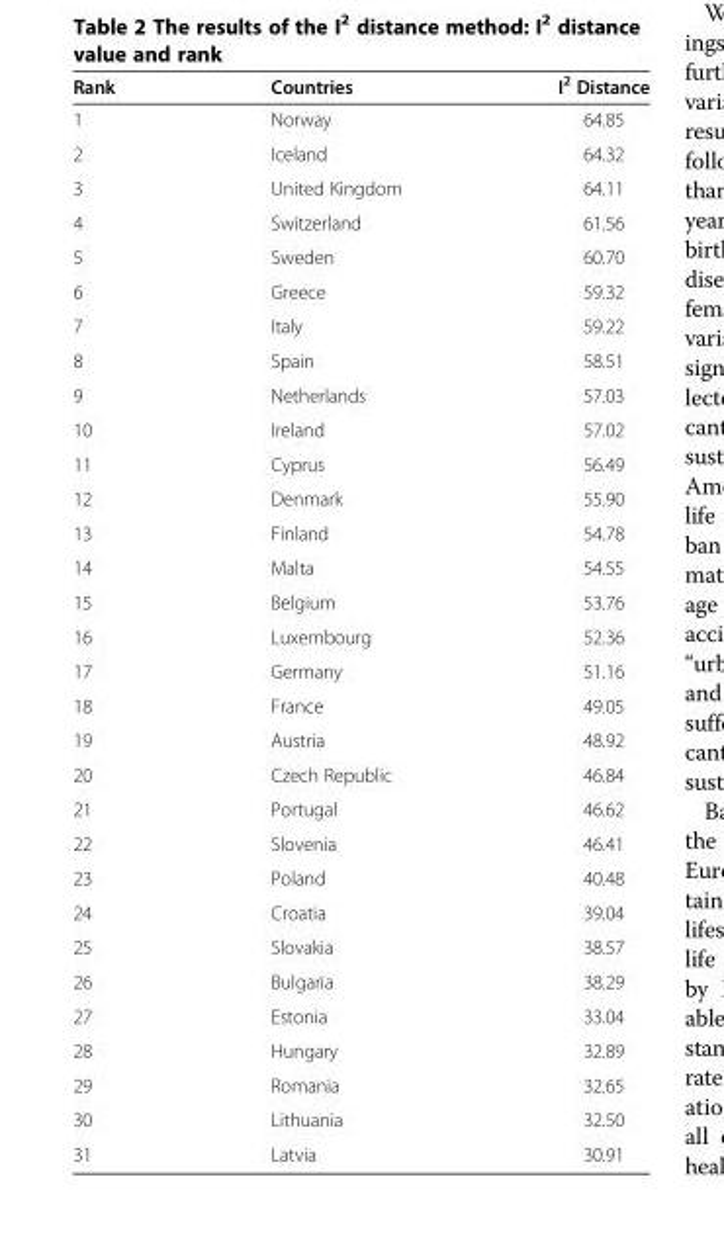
<table><thead><tr><td>Rank</td><td>Countries</td><td>I<sup>2</sup> Distance</td></tr></thead><tbody><tr><td>1</td><td>Norway</td><td>64.85</td></tr><tr><td>2</td><td>Iceland</td><td>64.32</td></tr><tr><td>3</td><td>United Kingdom</td><td>64.11</td></tr><tr><td>4</td><td>Switzerland</td><td>61.56</td></tr><tr><td>5</td><td>Sweden</td><td>60.70</td></tr><tr><td>6</td><td>Greece</td><td>59.32</td></tr><tr><td>7</td><td>Italy</td><td>59.22</td></tr><tr><td>8</td><td>Spain</td><td>58.51</td></tr><tr><td>9</td><td>Netherlands</td><td>57.03</td></tr><tr><td>10</td><td>Ireland</td><td>57.02</td></tr><tr><td>11</td><td>Cyprus</td><td>56.49</td></tr><tr><td>12</td><td>Denmark</td><td>55.90</td></tr><tr><td>13</td><td>Finland</td><td>54.78</td></tr><tr><td>14</td><td>Malta</td><td>54.55</td></tr><tr><td>15</td><td>Belgium</td><td>53.76</td></tr><tr><td>16</td><td>Luxembourg</td><td>52.36</td></tr><tr><td>17</td><td>Germany</td><td>51.16</td></tr><tr><td>18</td><td>France</td><td>49.05</td></tr><tr><td>19</td><td>Austria</td><td>48.92</td></tr><tr><td>20</td><td>Czech Republic</td><td>46.84</td></tr><tr><td>21</td><td>Portugal</td><td>46.62</td></tr><tr><td>22</td><td>Slovenia</td><td>46.41</td></tr><tr><td>23</td><td>Poland</td><td>40.48</td></tr><tr><td>24</td><td>Croatia</td><td>39.04</td></tr><tr><td>25</td><td>Slovakia</td><td>38.57</td></tr><tr><td>26</td><td>Bulgaria</td><td>38.29</td></tr><tr><td>27</td><td>Estonia</td><td>33.04</td></tr><tr><td>28</td><td>Hungary</td><td>32.89</td></tr><tr><td>29</td><td>Romania</td><td>32.65</td></tr><tr><td>30</td><td>Lithuania</td><td>32.50</td></tr><tr><td>31</td><td>Latvia</td><td>30.91</td></tr></tbody></table>